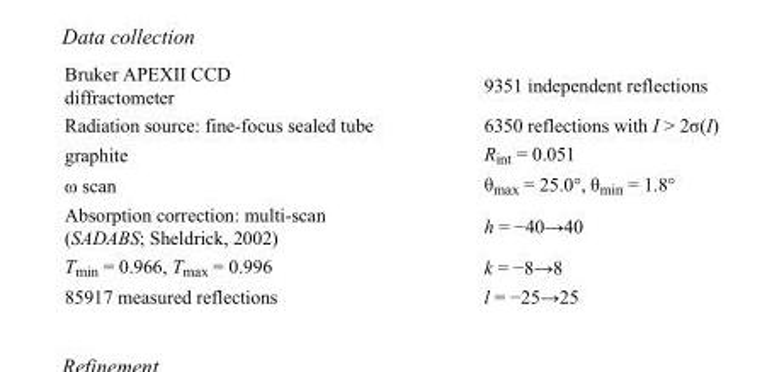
<table><tbody><tr><td>Bruker APEXII CCD diffractometer</td><td>9351 independent reflections</td></tr><tr><td>Radiation source: fine-focus sealed tube</td><td>6350 reflections with I &gt; 2σ(I)</td></tr><tr><td>graphite</td><td>R<sub>int</sub> = 0.051</td></tr><tr><td>ω scan</td><td>θ<sub>max</sub> = 25.0°, θ<sub>min</sub> = 1.8°</td></tr><tr><td>Absorption correction: multi-scan (SADABS; Sheldrick, 2002)</td><td>h = −40→40</td></tr><tr><td>T<sub>min</sub> = 0.966, T<sub>max</sub> = 0.996</td><td>k = −8→8</td></tr><tr><td>85917 measured reflections</td><td>l = −25→25</td></tr></tbody></table>